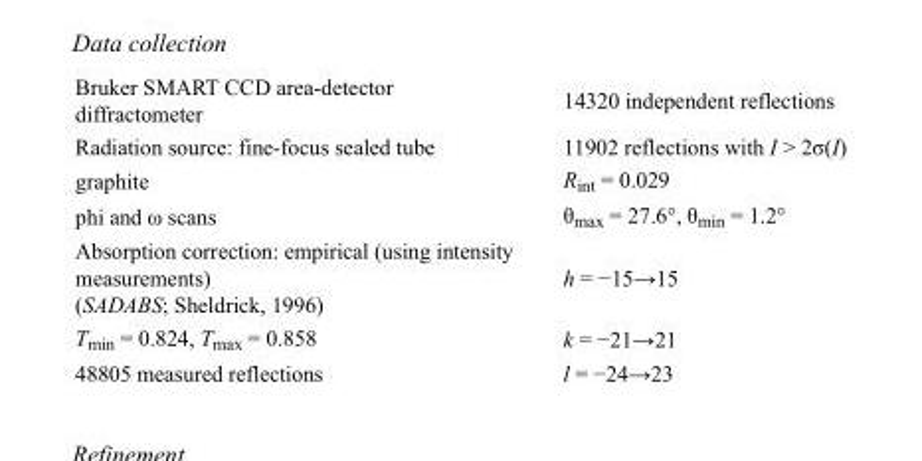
<table><tbody><tr><td>Bruker SMART CCD area-detector diffractometer</td><td>14320 independent reflections</td></tr><tr><td>Radiation source: fine-focus sealed tube</td><td>11902 reflections with I &gt; 2σ(I)</td></tr><tr><td>graphite</td><td>R<sub>int</sub> = 0.029</td></tr><tr><td>phi and ω scans</td><td>θ<sub>max</sub> = 27.6°, θ<sub>min</sub> = 1.2°</td></tr><tr><td>Absorption correction: empirical (using intensity measurements) (SADABS; Sheldrick, 1996)</td><td>h = −15→15</td></tr><tr><td>T<sub>min</sub> = 0.824, T<sub>max</sub> = 0.858</td><td>k = −21→21</td></tr><tr><td>48805 measured reflections</td><td>l = −24→23</td></tr></tbody></table>